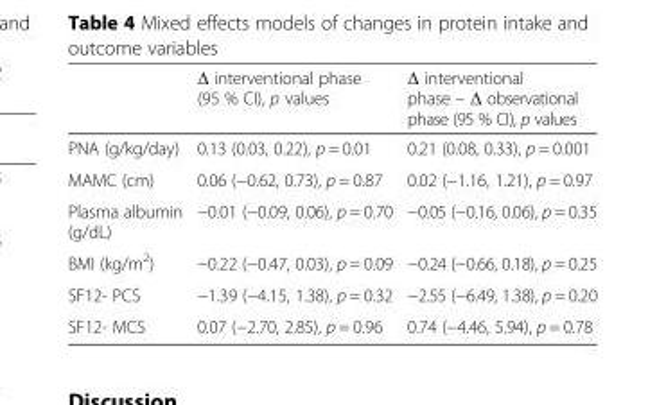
<table><thead><tr><td></td><td>Δ interventional phase (95 % CI), p values</td><td>Δ interventional phase – Δ observational phase (95 % CI), p values</td></tr></thead><tbody><tr><td>PNA (g/kg/day)</td><td>0.13 (0.03, 0.22), p = 0.01</td><td>0.21 (0.08, 0.33), p = 0.001</td></tr><tr><td>MAMC (cm)</td><td>0.06 (−0.62, 0.73), p = 0.87</td><td>0.02 (−1.16, 1.21), p = 0.97</td></tr><tr><td>Plasma albumin (g/dL)</td><td>−0.01 (−0.09, 0.06), p = 0.70</td><td>−0.05 (−0.16, 0.06), p = 0.35</td></tr><tr><td>BMI (kg/m<sup>2</sup>)</td><td>−0.22 (−0.47, 0.03), p = 0.09</td><td>−0.24 (−0.66, 0.18), p = 0.25</td></tr><tr><td>SF12- PCS</td><td>−1.39 (−4.15, 1.38), p = 0.32</td><td>−2.55 (−6.49, 1.38), p = 0.20</td></tr><tr><td>SF12- MCS</td><td>0.07 (−2.70, 2.85), p = 0.96</td><td>0.74 (−4.46, 5.94), p = 0.78</td></tr></tbody></table>